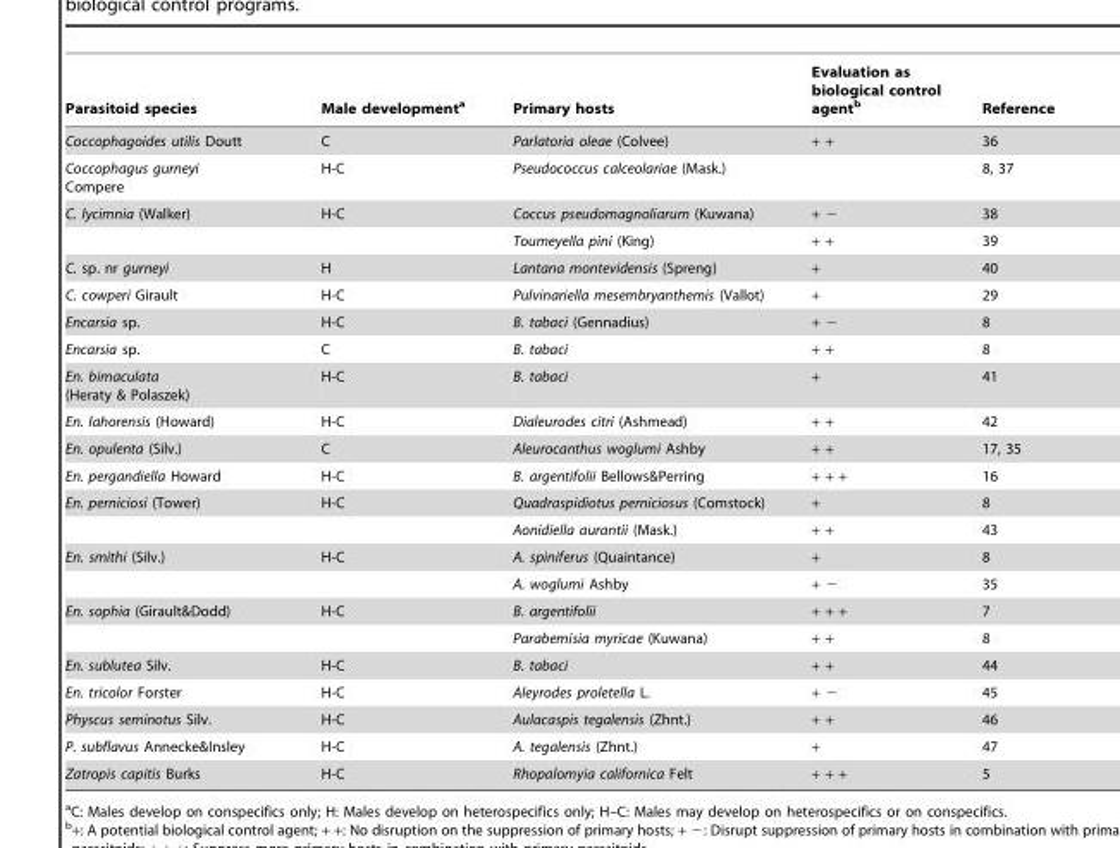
<table><thead><tr><td>Parasitoid species</td><td>Male development<sup>a</sup></td><td>Primary hosts</td><td>Evaluation as biological control agent<sup>b</sup></td><td>Reference</td></tr></thead><tbody><tr><td>Coccophagoides utilis Doutt</td><td>C</td><td>Parlatoria oleae (Colvee)</td><td>+ +</td><td>36</td></tr><tr><td>Coccophagus gurneyi Compere</td><td>H-C</td><td>Pseudococcus calceolariae (Mask.)</td><td></td><td>8, 37</td></tr><tr><td rowspan="2">C. lycimnia (Walker)</td><td>H-C</td><td>Coccus pseudomagnoliarum (Kuwana)</td><td>+ −</td><td>38</td></tr><tr><td></td><td>Toumeyella pini (King)</td><td>+ +</td><td>39</td></tr><tr><td>C. sp. nr gurneyi</td><td>H</td><td>Lantana montevidensis (Spreng)</td><td>+</td><td>40</td></tr><tr><td>C. cowperi Girault</td><td>H-C</td><td>Pulvinariella mesembryanthemis (Vallot)</td><td>+</td><td>29</td></tr><tr><td>Encarsia sp.</td><td>H-C</td><td>B. tabaci (Gennadius)</td><td>+ −</td><td>8</td></tr><tr><td>Encarsia sp.</td><td>C</td><td>B. tabaci</td><td>+ +</td><td>8</td></tr><tr><td>En. bimaculata (Heraty &amp; Polaszek)</td><td>H-C</td><td>B. tabaci</td><td>+</td><td>41</td></tr><tr><td>En. lahorensis (Howard)</td><td>H-C</td><td>Dialeurodes citri (Ashmead)</td><td>+ +</td><td>42</td></tr><tr><td>En. opulenta (Silv.)</td><td>C</td><td>Aleurocanthus woglumi Ashby</td><td>+ +</td><td>17, 35</td></tr><tr><td>En. pergandiella Howard</td><td>H-C</td><td>B. argentifolii Bellows&amp;Perring</td><td>+ + +</td><td>16</td></tr><tr><td rowspan="2">En. perniciosi (Tower)</td><td>H-C</td><td>Quadraspidiotus perniciosus (Comstock)</td><td>+</td><td>8</td></tr><tr><td></td><td>Aonidiella aurantii (Mask.)</td><td>+ +</td><td>43</td></tr><tr><td rowspan="2">En. smithi (Silv.)</td><td>H-C</td><td>A. spiniferus (Quaintance)</td><td>+</td><td>8</td></tr><tr><td></td><td>A. woglumi Ashby</td><td>+ −</td><td>35</td></tr><tr><td rowspan="2">En. sophia (Girault&amp;Dodd)</td><td>H-C</td><td>B. argentifolii</td><td>+ + +</td><td>7</td></tr><tr><td></td><td>Parabemisia myricae (Kuwana)</td><td>+ +</td><td>8</td></tr><tr><td>En. sublutea Silv.</td><td>H-C</td><td>B. tabaci</td><td>+ +</td><td>44</td></tr><tr><td>En. tricolor Forster</td><td>H-C</td><td>Aleyrodes proletella L.</td><td>+ −</td><td>45</td></tr><tr><td>Physcus seminotus Silv.</td><td>H-C</td><td>Aulacaspis tegalensis (Zhnt.)</td><td>+ +</td><td>46</td></tr><tr><td>P. subflavus Annecke&amp;Insley</td><td>H-C</td><td>A. tegalensis (Zhnt.)</td><td>+</td><td>47</td></tr><tr><td>Zatropis capitis Burks</td><td>H-C</td><td>Rhopalomyia californica Felt</td><td>+ + +</td><td>5</td></tr></tbody></table>